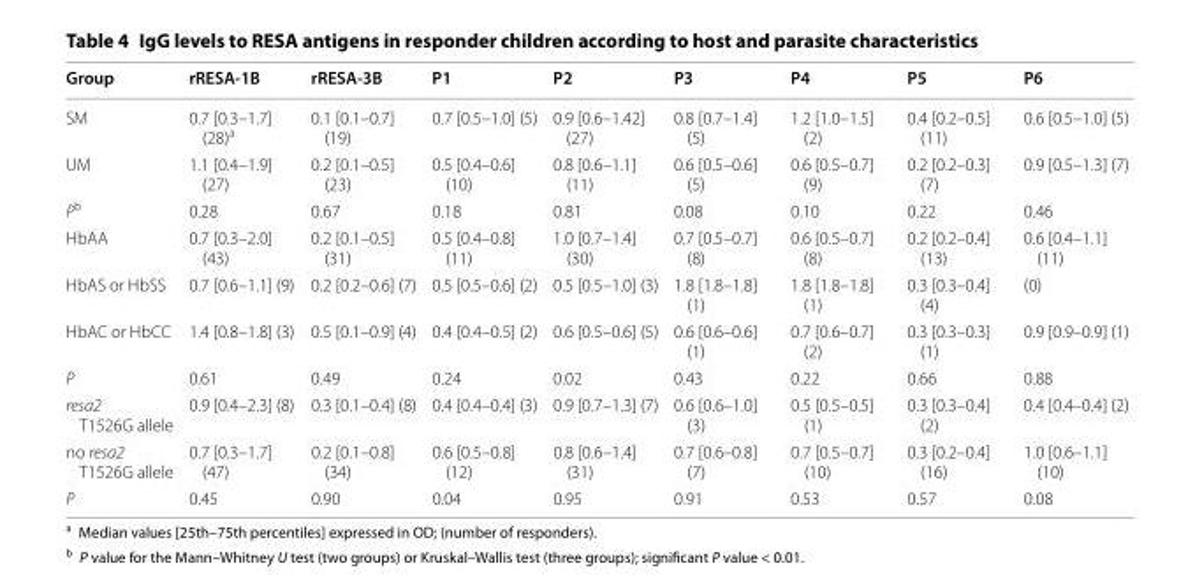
<table><thead><tr><td>Group</td><td>rRESA‑1B</td><td>rRESA‑3B</td><td>P1</td><td>P2</td><td>P3</td><td>P4</td><td>P5</td><td>P6</td></tr></thead><tbody><tr><td>SM</td><td>0.7 [0.3–1.7] (28)<sup>a</sup></td><td>0.1 [0.1–0.7] (19)</td><td>0.7 [0.5–1.0] (5)</td><td>0.9 [0.6–1.42] (27)</td><td>0.8 [0.7–1.4] (5)</td><td>1.2 [1.0–1.5] (2)</td><td>0.4 [0.2–0.5] (11)</td><td>0.6 [0.5–1.0] (5)</td></tr><tr><td>UM</td><td>1.1 [0.4–1.9] (27)</td><td>0.2 [0.1–0.5] (23)</td><td>0.5 [0.4–0.6] (10)</td><td>0.8 [0.6–1.1] (11)</td><td>0.6 [0.5–0.6] (5)</td><td>0.6 [0.5–0.7] (9)</td><td>0.2 [0.2–0.3] (7)</td><td>0.9 [0.5–1.3] (7)</td></tr><tr><td>P<sup>b</sup></td><td>0.28</td><td>0.67</td><td>0.18</td><td>0.81</td><td>0.08</td><td>0.10</td><td>0.22</td><td>0.46</td></tr><tr><td>HbAA</td><td>0.7 [0.3–2.0] (43)</td><td>0.2 [0.1–0.5] (31)</td><td>0.5 [0.4–0.8] (11)</td><td>1.0 [0.7–1.4] (30)</td><td>0.7 [0.5–0.7] (8)</td><td>0.6 [0.5–0.7] (8)</td><td>0.2 [0.2–0.4] (13)</td><td>0.6 [0.4–1.1] (11)</td></tr><tr><td>HbAS or HbSS</td><td>0.7 [0.6–1.1] (9)</td><td>0.2 [0.2–0.6] (7)</td><td>0.5 [0.5–0.6] (2)</td><td>0.5 [0.5–1.0] (3)</td><td>1.8 [1.8–1.8] (1)</td><td>1.8 [1.8–1.8] (1)</td><td>0.3 [0.3–0.4] (4)</td><td>(0)</td></tr><tr><td>HbAC or HbCC</td><td>1.4 [0.8–1.8] (3)</td><td>0.5 [0.1–0.9] (4)</td><td>0.4 [0.4–0.5] (2)</td><td>0.6 [0.5–0.6] (5)</td><td>0.6 [0.6–0.6] (1)</td><td>0.7 [0.6–0.7] (2)</td><td>0.3 [0.3–0.3] (1)</td><td>0.9 [0.9–0.9] (1)</td></tr><tr><td>P</td><td>0.61</td><td>0.49</td><td>0.24</td><td>0.02</td><td>0.43</td><td>0.22</td><td>0.66</td><td>0.88</td></tr><tr><td>resa2 T1526G allele</td><td>0.9 [0.4–2.3] (8)</td><td>0.3 [0.1–0.4] (8)</td><td>0.4 [0.4–0.4] (3)</td><td>0.9 [0.7–1.3] (7)</td><td>0.6 [0.6–1.0] (3)</td><td>0.5 [0.5–0.5] (1)</td><td>0.3 [0.3–0.4] (2)</td><td>0.4 [0.4–0.4] (2)</td></tr><tr><td>no resa2 T1526G allele</td><td>0.7 [0.3–1.7] (47)</td><td>0.2 [0.1–0.8] (34)</td><td>0.6 [0.5–0.8] (12)</td><td>0.8 [0.6–1.4] (31)</td><td>0.7 [0.6–0.8] (7)</td><td>0.7 [0.5–0.7] (10)</td><td>0.3 [0.2–0.4] (16)</td><td>1.0 [0.6–1.1] (10)</td></tr><tr><td>P</td><td>0.45</td><td>0.90</td><td>0.04</td><td>0.95</td><td>0.91</td><td>0.53</td><td>0.57</td><td>0.08</td></tr></tbody></table>